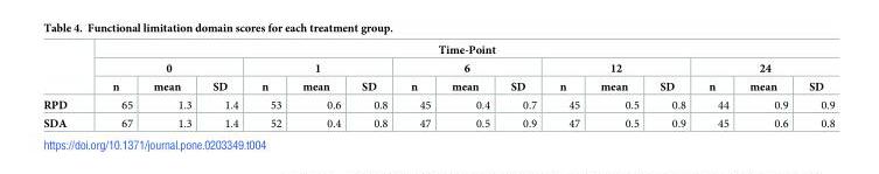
<table><thead><tr><td rowspan="3"></td><td colspan="15">Time-Point</td></tr><tr><td colspan="3">0</td><td colspan="3">1</td><td colspan="3">6</td><td colspan="3">12</td><td colspan="3">24</td></tr><tr><td>n</td><td>mean</td><td>SD</td><td>n</td><td>mean</td><td>SD</td><td>n</td><td>mean</td><td>SD</td><td>n</td><td>mean</td><td>SD</td><td>n</td><td>mean</td><td>SD</td></tr></thead><tbody><tr><td>RPD</td><td>65</td><td>1.3</td><td>1.4</td><td>53</td><td>0.6</td><td>0.8</td><td>45</td><td>0.4</td><td>0.7</td><td>45</td><td>0.5</td><td>0.8</td><td>44</td><td>0.9</td><td>0.9</td></tr><tr><td>SDA</td><td>67</td><td>1.3</td><td>1.4</td><td>52</td><td>0.4</td><td>0.8</td><td>47</td><td>0.5</td><td>0.9</td><td>47</td><td>0.5</td><td>0.9</td><td>45</td><td>0.6</td><td>0.8</td></tr></tbody></table>